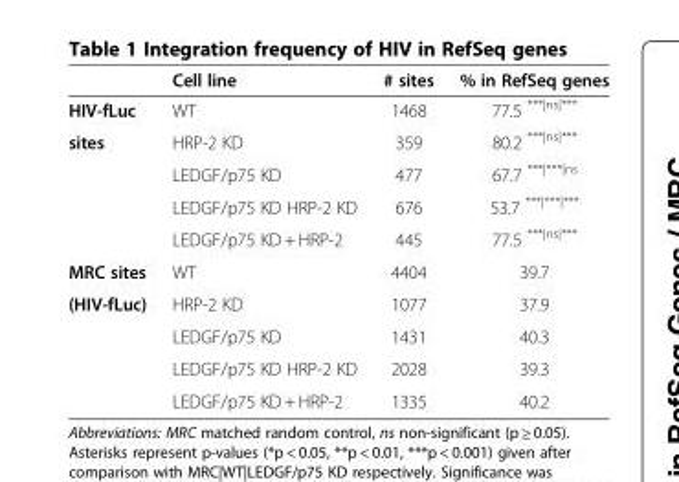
<table><thead><tr><td></td><td>Cell line</td><td># sites</td><td>% in RefSeq genes</td></tr></thead><tbody><tr><td>HIV-fLuc</td><td>WT</td><td>1468</td><td>77.5 <sup>***|ns|***</sup></td></tr><tr><td rowspan="4">sites</td><td>HRP-2 KD</td><td>359</td><td>80.2 <sup>***|ns|***</sup></td></tr><tr><td>LEDGF/p75 KD</td><td>477</td><td>67.7 <sup>***|***|ns</sup></td></tr><tr><td>LEDGF/p75 KD HRP-2 KD</td><td>676</td><td>53.7 <sup>***|***|***</sup></td></tr><tr><td>LEDGF/p75 KD + HRP-2</td><td>445</td><td>77.5 <sup>***|ns|***</sup></td></tr><tr><td>MRC sites</td><td>WT</td><td>4404</td><td>39.7</td></tr><tr><td rowspan="4">(HIV-fLuc)</td><td>HRP-2 KD</td><td>1077</td><td>37.9</td></tr><tr><td>LEDGF/p75 KD</td><td>1431</td><td>40.3</td></tr><tr><td>LEDGF/p75 KD HRP-2 KD</td><td>2028</td><td>39.3</td></tr><tr><td>LEDGF/p75 KD + HRP-2</td><td>1335</td><td>40.2</td></tr></tbody></table>